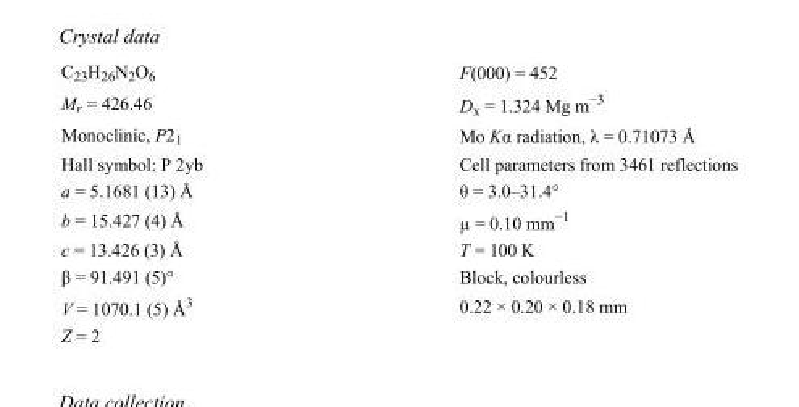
<table><tbody><tr><td>C<sub>23</sub>H<sub>26</sub>N<sub>2</sub>O<sub>6</sub></td><td>F(000) = 452</td></tr><tr><td>M<sub>r</sub> = 426.46</td><td>D<sub>x</sub> = 1.324 Mg m<sup>−3</sup></td></tr><tr><td>Monoclinic, P2<sub>1</sub></td><td>Mo Kα radiation, λ = 0.71073 Å</td></tr><tr><td>Hall symbol: P 2yb</td><td>Cell parameters from 3461 reflections</td></tr><tr><td>a = 5.1681 (13) Å</td><td>θ = 3.0–31.4°</td></tr><tr><td>b = 15.427 (4) Å</td><td>µ = 0.10 mm<sup>−1</sup></td></tr><tr><td>c = 13.426 (3) Å</td><td>T = 100 K</td></tr><tr><td>β = 91.491 (5)°</td><td>Block, colourless</td></tr><tr><td>V = 1070.1 (5) Å<sup>3</sup></td><td>0.22 × 0.20 × 0.18 mm</td></tr><tr><td>Z = 2</td><td></td></tr></tbody></table>